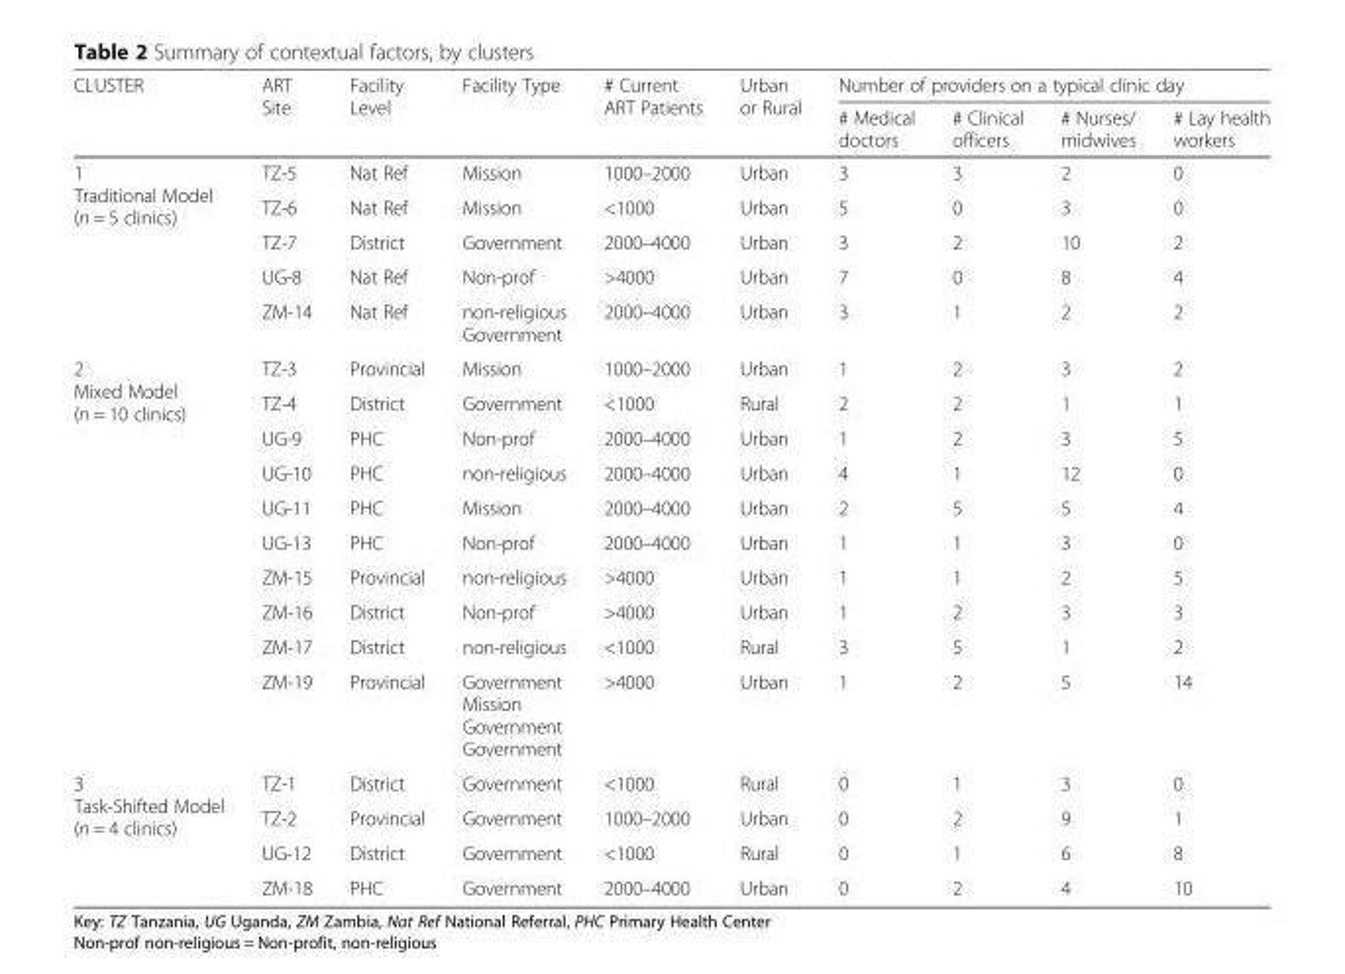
<table><thead><tr><td rowspan="2">CLUSTER</td><td rowspan="2">ART Site</td><td rowspan="2">Facility Level</td><td rowspan="2">Facility Type</td><td rowspan="2"># Current ART Patients</td><td rowspan="2">Urban or Rural</td><td colspan="4">Number of providers on a typical clinic day</td></tr><tr><td># Medical doctors</td><td># Clinical officers</td><td># Nurses/ midwives</td><td># Lay health workers</td></tr></thead><tbody><tr><td rowspan="5">1 Traditional Model (n = 5 clinics)</td><td>TZ-5</td><td>Nat Ref</td><td>Mission</td><td>1000–2000</td><td>Urban</td><td>3</td><td>3</td><td>2</td><td>0</td></tr><tr><td>TZ-6</td><td>Nat Ref</td><td>Mission</td><td>&lt;1000</td><td>Urban</td><td>5</td><td>0</td><td>3</td><td>0</td></tr><tr><td>TZ-7</td><td>District</td><td>Government</td><td>2000–4000</td><td>Urban</td><td>3</td><td>2</td><td>10</td><td>2</td></tr><tr><td>UG-8</td><td>Nat Ref</td><td>Non-prof</td><td>&gt;4000</td><td>Urban</td><td>7</td><td>0</td><td>8</td><td>4</td></tr><tr><td>ZM-14</td><td>Nat Ref</td><td>non-religious Government</td><td>2000–4000</td><td>Urban</td><td>3</td><td>1</td><td>2</td><td>2</td></tr><tr><td rowspan="10">2 Mixed Model (n = 10 clinics)</td><td>TZ-3</td><td>Provincial</td><td>Mission</td><td>1000–2000</td><td>Urban</td><td>1</td><td>2</td><td>3</td><td>2</td></tr><tr><td>TZ-4</td><td>District</td><td>Government</td><td>&lt;1000</td><td>Rural</td><td>2</td><td>2</td><td>1</td><td>1</td></tr><tr><td>UG-9</td><td>PHC</td><td>Non-prof</td><td>2000–4000</td><td>Urban</td><td>1</td><td>2</td><td>3</td><td>5</td></tr><tr><td>UG-10</td><td>PHC</td><td>non-religious</td><td>2000–4000</td><td>Urban</td><td>4</td><td>1</td><td>12</td><td>0</td></tr><tr><td>UG-11</td><td>PHC</td><td>Mission</td><td>2000–4000</td><td>Urban</td><td>2</td><td>5</td><td>5</td><td>4</td></tr><tr><td>UG-13</td><td>PHC</td><td>Non-prof</td><td>2000–4000</td><td>Urban</td><td>1</td><td>1</td><td>3</td><td>0</td></tr><tr><td>ZM-15</td><td>Provincial</td><td>non-religious</td><td>&gt;4000</td><td>Urban</td><td>1</td><td>1</td><td>2</td><td>5</td></tr><tr><td>ZM-16</td><td>District</td><td>Non-prof</td><td>&gt;4000</td><td>Urban</td><td>1</td><td>2</td><td>3</td><td>3</td></tr><tr><td>ZM-17</td><td>District</td><td>non-religious</td><td>&lt;1000</td><td>Rural</td><td>3</td><td>5</td><td>1</td><td>2</td></tr><tr><td>ZM-19</td><td>Provincial</td><td>Government Mission Government Government</td><td>&gt;4000</td><td>Urban</td><td>1</td><td>2</td><td>5</td><td>14</td></tr><tr><td rowspan="4">3 Task-Shifted Model (n = 4 clinics)</td><td>TZ-1</td><td>District</td><td>Government</td><td>&lt;1000</td><td>Rural</td><td>0</td><td>1</td><td>3</td><td>0</td></tr><tr><td>TZ-2</td><td>Provincial</td><td>Government</td><td>1000–2000</td><td>Urban</td><td>0</td><td>2</td><td>9</td><td>1</td></tr><tr><td>UG-12</td><td>District</td><td>Government</td><td>&lt;1000</td><td>Rural</td><td>0</td><td>1</td><td>6</td><td>8</td></tr><tr><td>ZM-18</td><td>PHC</td><td>Government</td><td>2000–4000</td><td>Urban</td><td>0</td><td>2</td><td>4</td><td>10</td></tr></tbody></table>